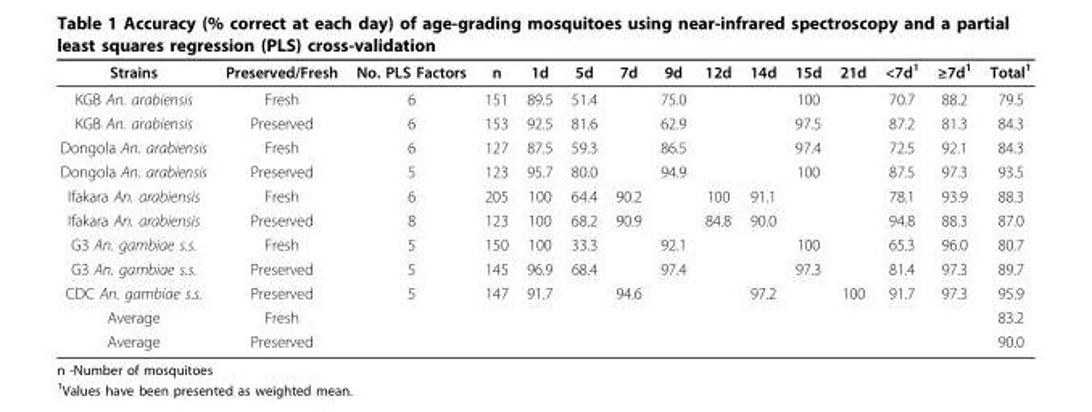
<table><thead><tr><td>Strains</td><td>Preserved/Fresh</td><td>No. PLS Factors</td><td>n</td><td>1d</td><td>5d</td><td>7d</td><td>9d</td><td>12d</td><td>14d</td><td>15d</td><td>21d</td><td>&lt;7d<sup>1</sup></td><td>≥7d<sup>1</sup></td><td>Total<sup>1</sup></td></tr></thead><tbody><tr><td>KGB An. arabiensis</td><td>Fresh</td><td>6</td><td>151</td><td>89.5</td><td>51.4</td><td></td><td>75.0</td><td></td><td></td><td>100</td><td></td><td>70.7</td><td>88.2</td><td>79.5</td></tr><tr><td>KGB An. arabiensis</td><td>Preserved</td><td>6</td><td>153</td><td>92.5</td><td>81.6</td><td></td><td>62.9</td><td></td><td></td><td>97.5</td><td></td><td>87.2</td><td>81.3</td><td>84.3</td></tr><tr><td>Dongola An. arabiensis</td><td>Fresh</td><td>6</td><td>127</td><td>87.5</td><td>59.3</td><td></td><td>86.5</td><td></td><td></td><td>97.4</td><td></td><td>72.5</td><td>92.1</td><td>84.3</td></tr><tr><td>Dongola An. arabiensis</td><td>Preserved</td><td>5</td><td>123</td><td>95.7</td><td>80.0</td><td></td><td>94.9</td><td></td><td></td><td>100</td><td></td><td>87.5</td><td>97.3</td><td>93.5</td></tr><tr><td>Ifakara An. arabiensis</td><td>Fresh</td><td>6</td><td>205</td><td>100</td><td>64.4</td><td>90.2</td><td></td><td>100</td><td>91.1</td><td></td><td></td><td>78.1</td><td>93.9</td><td>88.3</td></tr><tr><td>Ifakara An. arabiensis</td><td>Preserved</td><td>8</td><td>123</td><td>100</td><td>68.2</td><td>90.9</td><td></td><td>84.8</td><td>90.0</td><td></td><td></td><td>94.8</td><td>88.3</td><td>87.0</td></tr><tr><td>G3 An. gambiae s.s.</td><td>Fresh</td><td>5</td><td>150</td><td>100</td><td>33.3</td><td></td><td>92.1</td><td></td><td></td><td>100</td><td></td><td>65.3</td><td>96.0</td><td>80.7</td></tr><tr><td>G3 An. gambiae s.s.</td><td>Preserved</td><td>5</td><td>145</td><td>96.9</td><td>68.4</td><td></td><td>97.4</td><td></td><td></td><td>97.3</td><td></td><td>81.4</td><td>97.3</td><td>89.7</td></tr><tr><td>CDC An. gambiae s.s.</td><td>Preserved</td><td>5</td><td>147</td><td>91.7</td><td></td><td>94.6</td><td></td><td></td><td>97.2</td><td></td><td>100</td><td>91.7</td><td>97.3</td><td>95.9</td></tr><tr><td>Average</td><td>Fresh</td><td></td><td></td><td></td><td></td><td></td><td></td><td></td><td></td><td></td><td></td><td></td><td></td><td>83.2</td></tr><tr><td>Average</td><td>Preserved</td><td></td><td></td><td></td><td></td><td></td><td></td><td></td><td></td><td></td><td></td><td></td><td></td><td>90.0</td></tr></tbody></table>